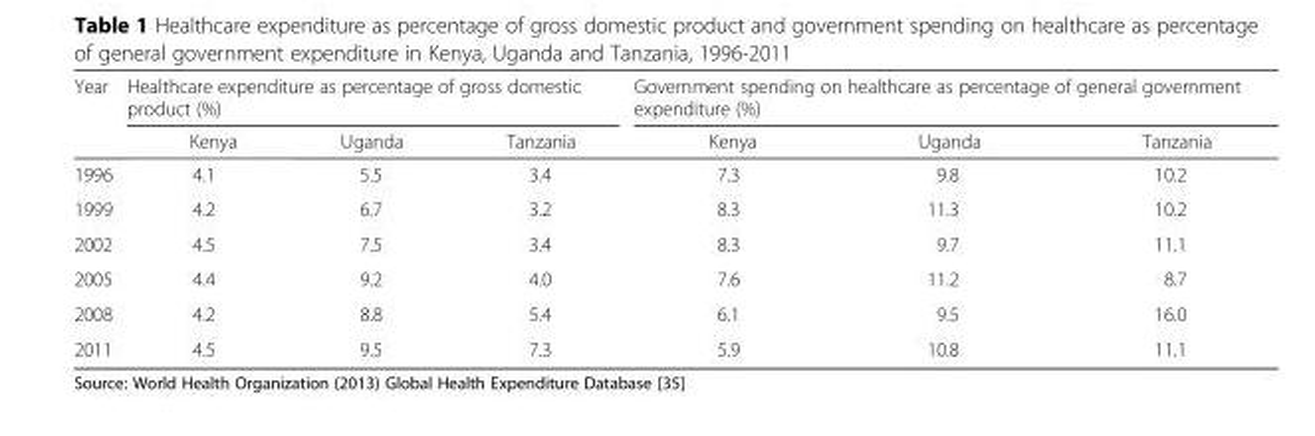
<table><thead><tr><td rowspan="2">Year</td><td colspan="3">Healthcare expenditure as percentage of gross domestic product (%)</td><td colspan="3">Government spending on healthcare as percentage of general government expenditure (%)</td></tr><tr><td>Kenya</td><td>Uganda</td><td>Tanzania</td><td>Kenya</td><td>Uganda</td><td>Tanzania</td></tr></thead><tbody><tr><td>1996</td><td>4.1</td><td>5.5</td><td>3.4</td><td>7.3</td><td>9.8</td><td>10.2</td></tr><tr><td>1999</td><td>4.2</td><td>6.7</td><td>3.2</td><td>8.3</td><td>11.3</td><td>10.2</td></tr><tr><td>2002</td><td>4.5</td><td>7.5</td><td>3.4</td><td>8.3</td><td>9.7</td><td>11.1</td></tr><tr><td>2005</td><td>4.4</td><td>9.2</td><td>4.0</td><td>7.6</td><td>11.2</td><td>8.7</td></tr><tr><td>2008</td><td>4.2</td><td>8.8</td><td>5.4</td><td>6.1</td><td>9.5</td><td>16.0</td></tr><tr><td>2011</td><td>4.5</td><td>9.5</td><td>7.3</td><td>5.9</td><td>10.8</td><td>11.1</td></tr></tbody></table>